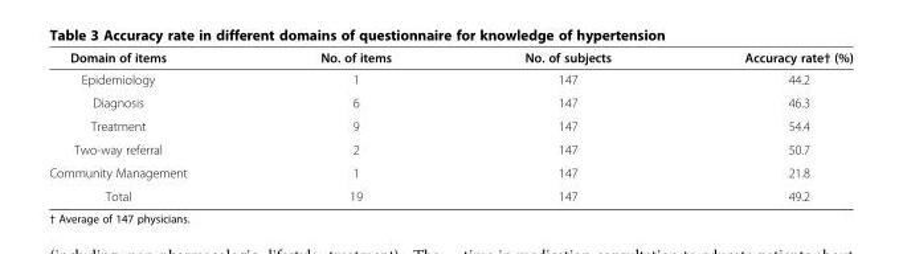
<table><thead><tr><td>Domain of items</td><td>No. of items</td><td>No. of subjects</td><td>Accuracy rate† (%)</td></tr></thead><tbody><tr><td>Epidemiology</td><td>1</td><td>147</td><td>44.2</td></tr><tr><td>Diagnosis</td><td>6</td><td>147</td><td>46.3</td></tr><tr><td>Treatment</td><td>9</td><td>147</td><td>54.4</td></tr><tr><td>Two-way referral</td><td>2</td><td>147</td><td>50.7</td></tr><tr><td>Community Management</td><td>1</td><td>147</td><td>21.8</td></tr><tr><td>Total</td><td>19</td><td>147</td><td>49.2</td></tr></tbody></table>